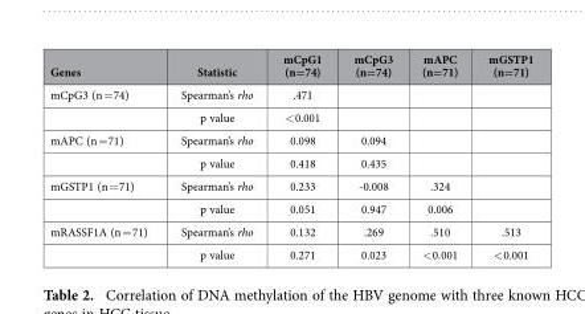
<table><thead><tr><td>Genes</td><td>Statistic</td><td>mCpG1 (n=74)</td><td>mCpG3 (n=74)</td><td>mAPC (n=71)</td><td>mGSTP1 (n=71)</td></tr></thead><tbody><tr><td rowspan="2">mCpG3 (n = 74)</td><td>Spearman’s rho</td><td>.471</td><td></td><td></td><td></td></tr><tr><td>p value</td><td>&lt; 0.001</td><td></td><td></td><td></td></tr><tr><td rowspan="2">mAPC (n = 71)</td><td>Spearman’s rho</td><td>0.098</td><td>0.094</td><td></td><td></td></tr><tr><td>p value</td><td>0.418</td><td>0.435</td><td></td><td></td></tr><tr><td rowspan="2">mGSTP1 (n = 71)</td><td>Spearman’s rho</td><td>0.233</td><td>-0.008</td><td>.324</td><td></td></tr><tr><td>p value</td><td>0.051</td><td>0.947</td><td>0.006</td><td></td></tr><tr><td rowspan="2">mRASSF1A (n = 71)</td><td>Spearman’s rho</td><td>0.132</td><td>.269</td><td>.510</td><td>.513</td></tr><tr><td>p value</td><td>0.271</td><td>0.023</td><td>&lt; 0.001</td><td>&lt; 0.001</td></tr></tbody></table>